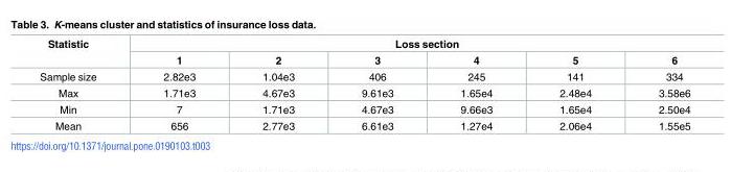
<table><thead><tr><td rowspan="2">Statistic</td><td colspan="6">Loss section</td></tr><tr><td>1</td><td>2</td><td>3</td><td>4</td><td>5</td><td>6</td></tr></thead><tbody><tr><td>Sample size</td><td>2.82e3</td><td>1.04e3</td><td>406</td><td>245</td><td>141</td><td>334</td></tr><tr><td>Max</td><td>1.71e3</td><td>4.67e3</td><td>9.61e3</td><td>1.65e4</td><td>2.48e4</td><td>3.58e6</td></tr><tr><td>Min</td><td>7</td><td>1.71e3</td><td>4.67e3</td><td>9.66e3</td><td>1.65e4</td><td>2.50e4</td></tr><tr><td>Mean</td><td>656</td><td>2.77e3</td><td>6.61e3</td><td>1.27e4</td><td>2.06e4</td><td>1.55e5</td></tr></tbody></table>